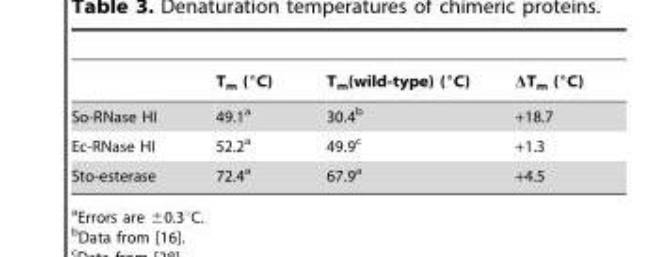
<table><thead><tr><td></td><td>T<sub>m</sub> (°C)</td><td>T<sub>m</sub>(wild-type) (°C)</td><td>ΔT<sub>m</sub> (°C)</td></tr></thead><tbody><tr><td>So-RNase HI</td><td>49.1<sup>a</sup></td><td>30.4<sup>b</sup></td><td>+18.7</td></tr><tr><td>Ec-RNase HI</td><td>52.2<sup>a</sup></td><td>49.9<sup>c</sup></td><td>+1.3</td></tr><tr><td>Sto-esterase</td><td>72.4<sup>a</sup></td><td>67.9<sup>a</sup></td><td>+4.5</td></tr></tbody></table>